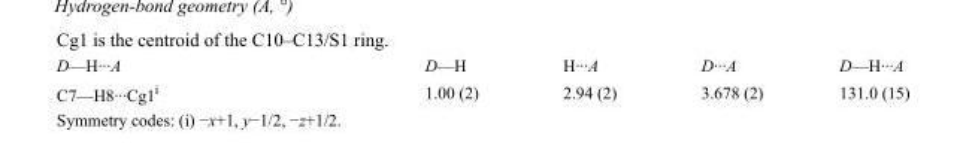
<table><tbody><tr><td>D—H···A</td><td>D—H</td><td>H···A</td><td>D···A</td><td>D—H···A</td></tr><tr><td>C7—H8···Cg1<sup>i</sup></td><td>1.00 (2)</td><td>2.94 (2)</td><td>3.678 (2)</td><td>131.0 (15)</td></tr></tbody></table>